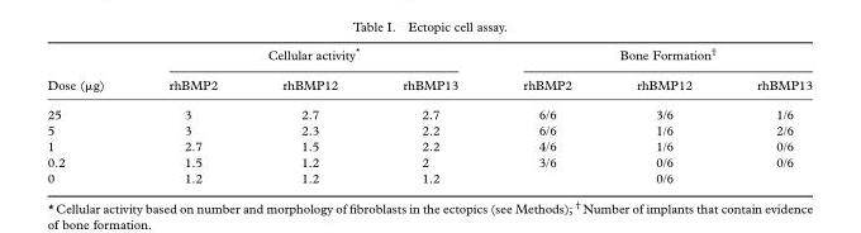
<table><thead><tr><td rowspan="2">Dose (µg)</td><td colspan="3">Cellular activity*</td><td colspan="3">Bone Formation†</td></tr><tr><td>rhBMP2</td><td>rhBMP12</td><td>rhBMP13</td><td>rhBMP2</td><td>rhBMP12</td><td>rhBMP13</td></tr></thead><tbody><tr><td>25</td><td>3</td><td>2.7</td><td>2.7</td><td>6/6</td><td>3/6</td><td>1/6</td></tr><tr><td>5</td><td>3</td><td>2.3</td><td>2.2</td><td>6/6</td><td>1/6</td><td>2/6</td></tr><tr><td>1</td><td>2.7</td><td>1.5</td><td>2.2</td><td>4/6</td><td>1/6</td><td>0/6</td></tr><tr><td>0.2</td><td>1.5</td><td>1.2</td><td>2</td><td>3/6</td><td>0/6</td><td>0/6</td></tr><tr><td>0</td><td>1.2</td><td>1.2</td><td>1.2</td><td></td><td>0/6</td><td></td></tr></tbody></table>